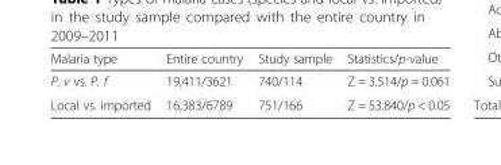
<table><thead><tr><td>Malaria type</td><td>Entire country</td><td>Study sample</td><td>Statistics/p-value</td></tr></thead><tbody><tr><td>P. v vs. P. f</td><td>19,411/3621</td><td>740/114</td><td>Z = 3.514/p = 0.061</td></tr><tr><td>Local vs. imported</td><td>16,383/6789</td><td>751/166</td><td>Z = 53.840/p &lt; 0.05</td></tr></tbody></table>